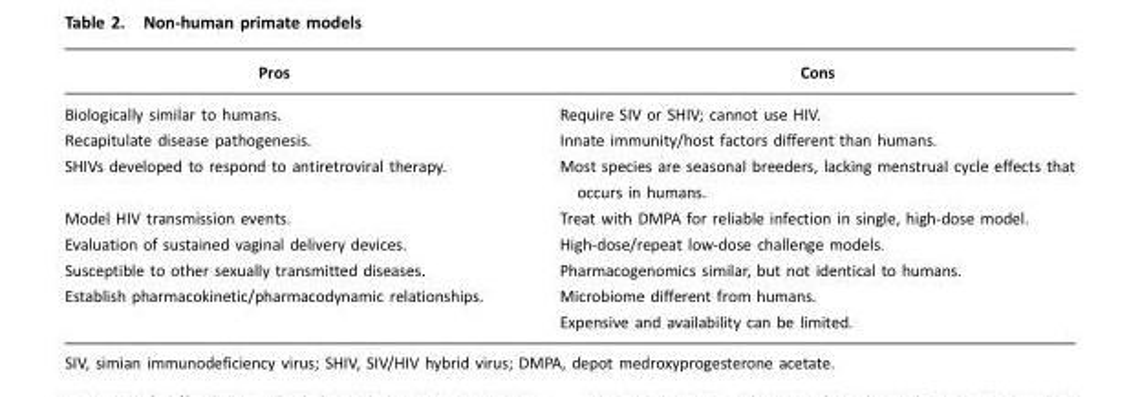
<table><thead><tr><td>Pros</td><td>Cons</td></tr></thead><tbody><tr><td>Biologically similar to humans.</td><td>Require SIV or SHIV; cannot use HIV.</td></tr><tr><td>Recapitulate disease pathogenesis.</td><td>Innate immunity/host factors different than humans.</td></tr><tr><td>SHIVs developed to respond to antiretroviral therapy.</td><td>Most species are seasonal breeders, lacking menstrual cycle effects that occurs in humans.</td></tr><tr><td>Model HIV transmission events.</td><td>Treat with DMPA for reliable infection in single, high-dose model.</td></tr><tr><td>Evaluation of sustained vaginal delivery devices.</td><td>High-dose/repeat low-dose challenge models.</td></tr><tr><td>Susceptible to other sexually transmitted diseases.</td><td>Pharmacogenomics similar, but not identical to humans.</td></tr><tr><td rowspan="2">Establish pharmacokinetic/pharmacodynamic relationships.</td><td>Microbiome different from humans.</td></tr><tr><td>Expensive and availability can be limited.</td></tr></tbody></table>